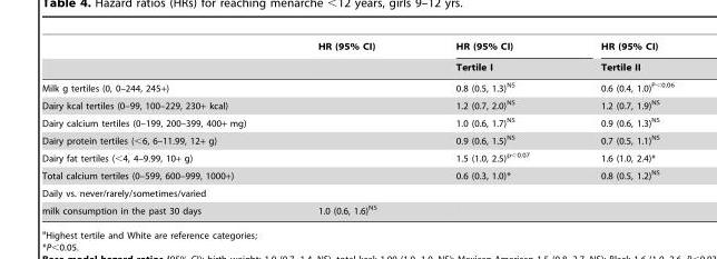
<table><thead><tr><td rowspan="2"></td><td rowspan="2">HR (95% CI)</td><td rowspan="2">HR (95% CI) Tertile I</td><td rowspan="2">HR (95% CI) Tertile II</td></tr><tr></tr></thead><tbody><tr><td>Milk g tertiles (0, 0–244, 245+)</td><td></td><td>0.8 (0.5, 1.3)<sup>NS</sup></td><td>0.6 (0.4, 1.0)<sup>P&lt;0.06</sup></td></tr><tr><td>Dairy kcal tertiles (0–99, 100–229, 230+ kcal)</td><td></td><td>1.2 (0.7, 2.0)<sup>NS</sup></td><td>1.2 (0.7, 1.9)<sup>NS</sup></td></tr><tr><td>Dairy calcium tertiles (0–199, 200–399, 400+ mg)</td><td></td><td>1.0 (0.6, 1.7)<sup>NS</sup></td><td>0.9 (0.6, 1.3)<sup>NS</sup></td></tr><tr><td>Dairy protein tertiles (&lt;6, 6–11.99, 12+ g)</td><td></td><td>0.9 (0.6, 1.5)<sup>NS</sup></td><td>0.7 (0.5, 1.1)<sup>NS</sup></td></tr><tr><td>Dairy fat tertiles (&lt;4, 4–9.99, 10+ g)</td><td></td><td>1.5 (1.0, 2.5)<sup>p&lt;0.07</sup></td><td>1.6 (1.0, 2.4)*</td></tr><tr><td>Total calcium tertiles (0–599, 600–999, 1000+)</td><td></td><td>0.6 (0.3, 1.0)*</td><td>0.8 (0.5, 1.2)<sup>NS</sup></td></tr><tr><td colspan="4">Daily vs. never/rarely/sometimes/varied</td></tr><tr><td>milk consumption in the past 30 days</td><td>1.0 (0.6, 1.6)<sup>NS</sup></td><td></td><td></td></tr></tbody></table>